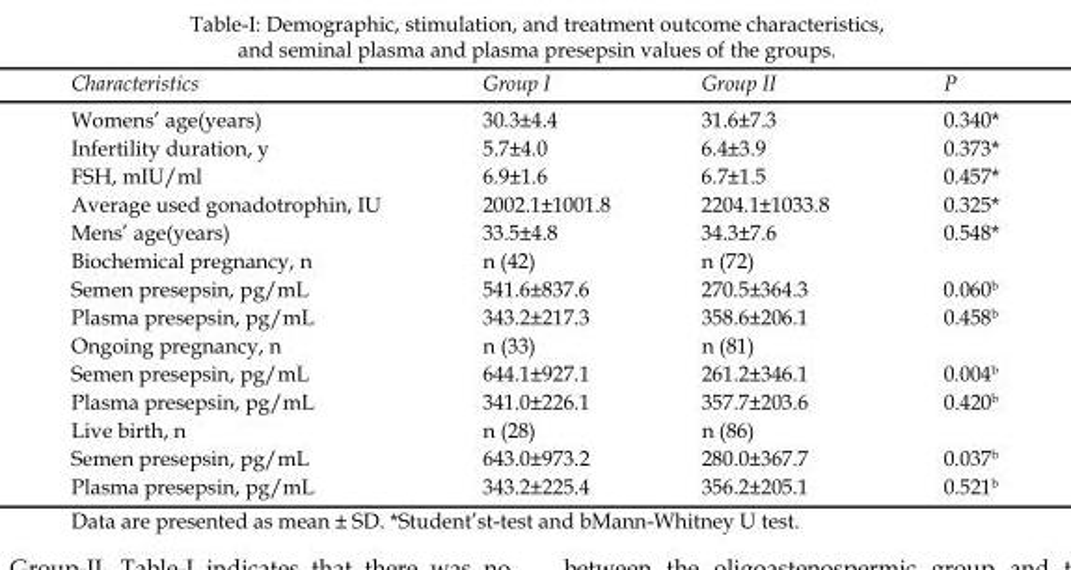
<table><thead><tr><td>Characteristics</td><td>Group I</td><td>Group II</td><td>P</td></tr></thead><tbody><tr><td>Womens’ age(years)</td><td>30.3±4.4</td><td>31.6±7.3</td><td>0.340*</td></tr><tr><td>Infertility duration, y</td><td>5.7±4.0</td><td>6.4±3.9</td><td>0.373*</td></tr><tr><td>FSH, mIU/ml</td><td>6.9±1.6</td><td>6.7±1.5</td><td>0.457*</td></tr><tr><td>Average used gonadotrophin, IU</td><td>2002.1±1001.8</td><td>2204.1±1033.8</td><td>0.325*</td></tr><tr><td>Mens’ age(years)</td><td>33.5±4.8</td><td>34.3±7.6</td><td>0.548*</td></tr><tr><td>Biochemical pregnancy, n</td><td>n (42)</td><td>n (72)</td><td></td></tr><tr><td>Semen presepsin, pg/mL</td><td>541.6±837.6</td><td>270.5±364.3</td><td>0.060<sup>b</sup></td></tr><tr><td>Plasma presepsin, pg/mL</td><td>343.2±217.3</td><td>358.6±206.1</td><td>0.458<sup>b</sup></td></tr><tr><td>Ongoing pregnancy, n</td><td>n (33)</td><td>n (81)</td><td></td></tr><tr><td>Semen presepsin, pg/mL</td><td>644.1±927.1</td><td>261.2±346.1</td><td>0.004<sup>b</sup></td></tr><tr><td>Plasma presepsin, pg/mL</td><td>341.0±226.1</td><td>357.7±203.6</td><td>0.420<sup>b</sup></td></tr><tr><td>Live birth, n</td><td>n (28)</td><td>n (86)</td><td></td></tr><tr><td>Semen presepsin, pg/mL</td><td>643.0±973.2</td><td>280.0±367.7</td><td>0.037<sup>b</sup></td></tr><tr><td>Plasma presepsin, pg/mL</td><td>343.2±225.4</td><td>356.2±205.1</td><td>0.521<sup>b</sup></td></tr></tbody></table>